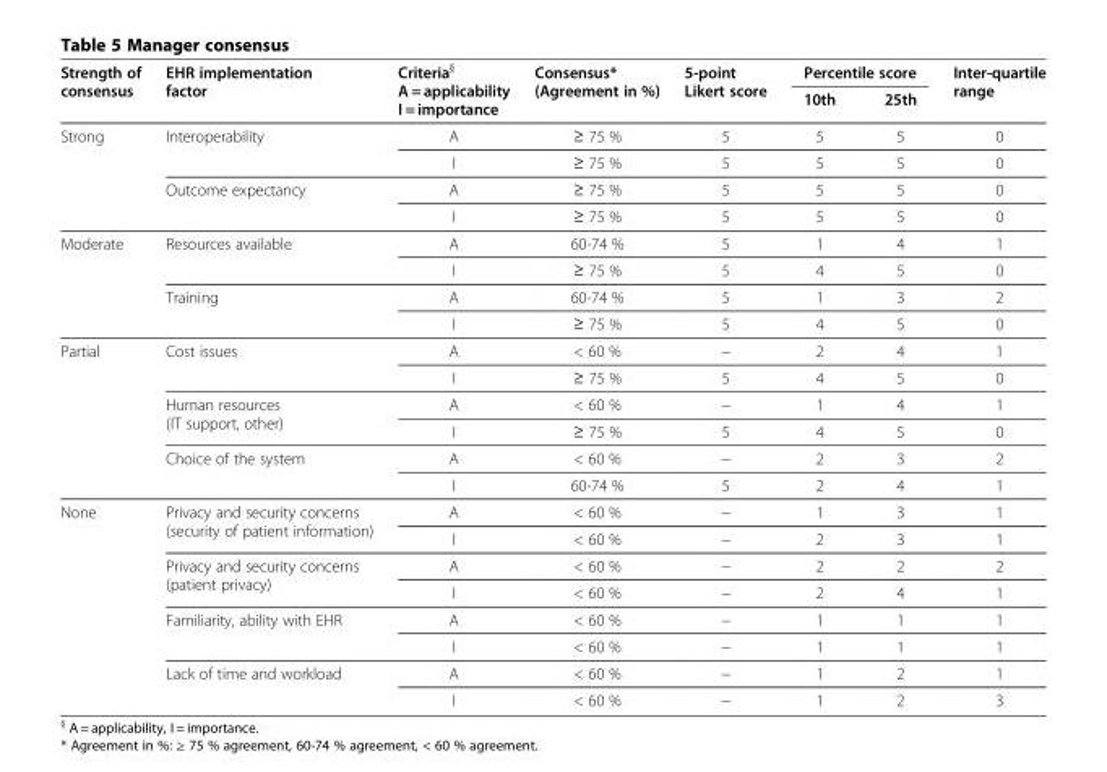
<table><thead><tr><td rowspan="2">Strength of consensus</td><td rowspan="2">EHR implementation factor</td><td rowspan="2">Criteria<sup>§</sup> A = applicability I = importance</td><td rowspan="2">Consensus* (Agreement in %)</td><td rowspan="2">5-point Likert score</td><td colspan="2">Percentile score</td><td rowspan="2">Inter-quartile range</td></tr><tr><td>10th</td><td>25th</td></tr></thead><tbody><tr><td rowspan="4">Strong</td><td rowspan="2">Interoperability</td><td>A</td><td>≥ 75 %</td><td>5</td><td>5</td><td>5</td><td>0</td></tr><tr><td>I</td><td>≥ 75 %</td><td>5</td><td>5</td><td>5</td><td>0</td></tr><tr><td rowspan="2">Outcome expectancy</td><td>A</td><td>≥ 75 %</td><td>5</td><td>5</td><td>5</td><td>0</td></tr><tr><td>I</td><td>≥ 75 %</td><td>5</td><td>5</td><td>5</td><td>0</td></tr><tr><td rowspan="4">Moderate</td><td rowspan="2">Resources available</td><td>A</td><td>60-74 %</td><td>5</td><td>1</td><td>4</td><td>1</td></tr><tr><td>I</td><td>≥ 75 %</td><td>5</td><td>4</td><td>5</td><td>0</td></tr><tr><td rowspan="2">Training</td><td>A</td><td>60-74 %</td><td>5</td><td>1</td><td>3</td><td>2</td></tr><tr><td>I</td><td>≥ 75 %</td><td>5</td><td>4</td><td>5</td><td>0</td></tr><tr><td rowspan="6">Partial</td><td rowspan="2">Cost issues</td><td>A</td><td>&lt; 60 %</td><td>−</td><td>2</td><td>4</td><td>1</td></tr><tr><td>I</td><td>≥ 75 %</td><td>5</td><td>4</td><td>5</td><td>0</td></tr><tr><td rowspan="2">Human resources (IT support, other)</td><td>A</td><td>&lt; 60 %</td><td>−</td><td>1</td><td>4</td><td>1</td></tr><tr><td>I</td><td>≥ 75 %</td><td>5</td><td>4</td><td>5</td><td>0</td></tr><tr><td rowspan="2">Choice of the system</td><td>A</td><td>&lt; 60 %</td><td>−</td><td>2</td><td>3</td><td>2</td></tr><tr><td>I</td><td>60-74 %</td><td>5</td><td>2</td><td>4</td><td>1</td></tr><tr><td rowspan="8">None</td><td rowspan="2">Privacy and security concerns (security of patient information)</td><td>A</td><td>&lt; 60 %</td><td>−</td><td>1</td><td>3</td><td>1</td></tr><tr><td>I</td><td>&lt; 60 %</td><td>−</td><td>2</td><td>3</td><td>1</td></tr><tr><td rowspan="2">Privacy and security concerns (patient privacy)</td><td>A</td><td>&lt; 60 %</td><td>−</td><td>2</td><td>2</td><td>2</td></tr><tr><td>I</td><td>&lt; 60 %</td><td>−</td><td>2</td><td>4</td><td>1</td></tr><tr><td rowspan="2">Familiarity, ability with EHR</td><td>A</td><td>&lt; 60 %</td><td>−</td><td>1</td><td>1</td><td>1</td></tr><tr><td>I</td><td>&lt; 60 %</td><td>−</td><td>1</td><td>1</td><td>1</td></tr><tr><td rowspan="2">Lack of time and workload</td><td>A</td><td>&lt; 60 %</td><td>−</td><td>1</td><td>2</td><td>1</td></tr><tr><td>I</td><td>&lt; 60 %</td><td>−</td><td>1</td><td>2</td><td>3</td></tr></tbody></table>